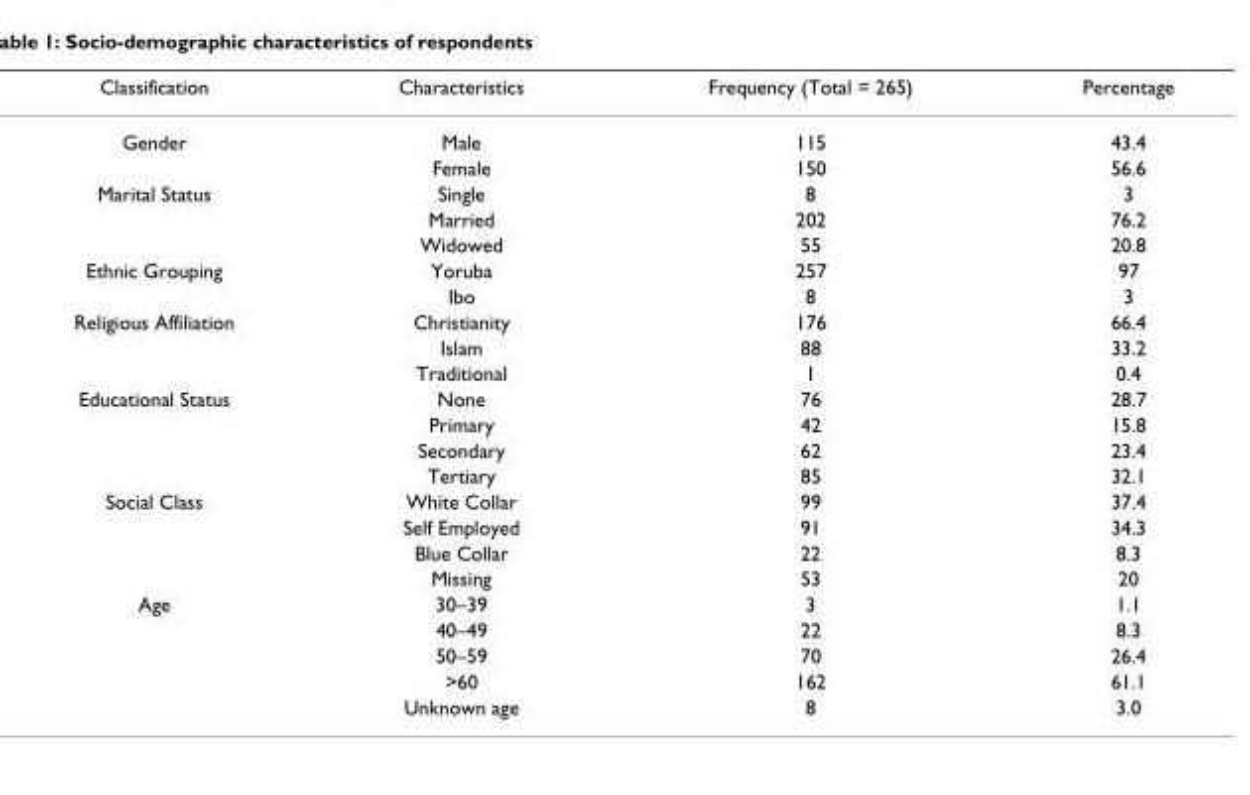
<table><thead><tr><td>Classification</td><td>Characteristics</td><td>Frequency (Total = 265)</td><td>Percentage</td></tr></thead><tbody><tr><td rowspan="2">Gender</td><td>Male</td><td>115</td><td>43.4</td></tr><tr><td>Female</td><td>150</td><td>56.6</td></tr><tr><td rowspan="3">Marital Status</td><td>Single</td><td>8</td><td>3</td></tr><tr><td>Married</td><td>202</td><td>76.2</td></tr><tr><td>Widowed</td><td>55</td><td>20.8</td></tr><tr><td rowspan="2">Ethnic Grouping</td><td>Yoruba</td><td>257</td><td>97</td></tr><tr><td>Ibo</td><td>8</td><td>3</td></tr><tr><td rowspan="3">Religious Affiliation</td><td>Christianity</td><td>176</td><td>66.4</td></tr><tr><td>Islam</td><td>88</td><td>33.2</td></tr><tr><td>Traditional</td><td>1</td><td>0.4</td></tr><tr><td rowspan="4">Educational Status</td><td>None</td><td>76</td><td>28.7</td></tr><tr><td>Primary</td><td>42</td><td>15.8</td></tr><tr><td>Secondary</td><td>62</td><td>23.4</td></tr><tr><td>Tertiary</td><td>85</td><td>32.1</td></tr><tr><td rowspan="4">Social Class</td><td>White Collar</td><td>99</td><td>37.4</td></tr><tr><td>Self Employed</td><td>91</td><td>34.3</td></tr><tr><td>Blue Collar</td><td>22</td><td>8.3</td></tr><tr><td>Missing</td><td>53</td><td>20</td></tr><tr><td rowspan="5">Age</td><td>30–39</td><td>3</td><td>1.1</td></tr><tr><td>40–49</td><td>22</td><td>8.3</td></tr><tr><td>50–59</td><td>70</td><td>26.4</td></tr><tr><td>&gt;60</td><td>162</td><td>61.1</td></tr><tr><td>Unknown age</td><td>8</td><td>3.0</td></tr></tbody></table>